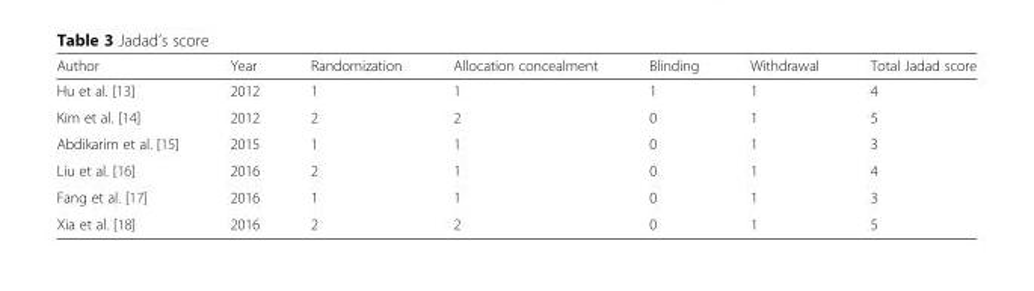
<table><thead><tr><td>Author</td><td>Year</td><td>Randomization</td><td>Allocation concealment</td><td>Blinding</td><td>Withdrawal</td><td>Total Jadad score</td></tr></thead><tbody><tr><td>Hu et al. [13]</td><td>2012</td><td>1</td><td>1</td><td>1</td><td>1</td><td>4</td></tr><tr><td>Kim et al. [14]</td><td>2012</td><td>2</td><td>2</td><td>0</td><td>1</td><td>5</td></tr><tr><td>Abdikarim et al. [15]</td><td>2015</td><td>1</td><td>1</td><td>0</td><td>1</td><td>3</td></tr><tr><td>Liu et al. [16]</td><td>2016</td><td>2</td><td>1</td><td>0</td><td>1</td><td>4</td></tr><tr><td>Fang et al. [17]</td><td>2016</td><td>1</td><td>1</td><td>0</td><td>1</td><td>3</td></tr><tr><td>Xia et al. [18]</td><td>2016</td><td>2</td><td>2</td><td>0</td><td>1</td><td>5</td></tr></tbody></table>